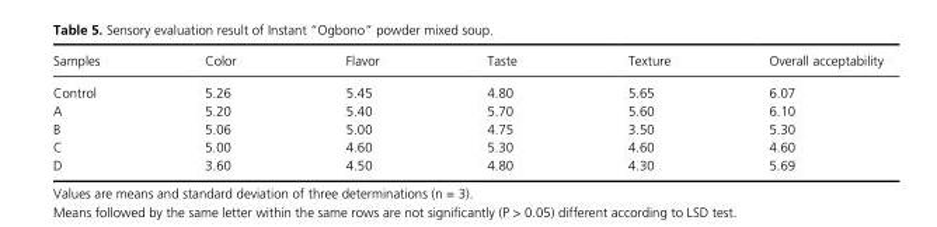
<table><thead><tr><td>Samples</td><td>Color</td><td>Flavor</td><td>Taste</td><td>Texture</td><td>Overall acceptability</td></tr></thead><tbody><tr><td>Control</td><td>5.26</td><td>5.45</td><td>4.80</td><td>5.65</td><td>6.07</td></tr><tr><td>A</td><td>5.20</td><td>5.40</td><td>5.70</td><td>5.60</td><td>6.10</td></tr><tr><td>B</td><td>5.06</td><td>5.00</td><td>4.75</td><td>3.50</td><td>5.30</td></tr><tr><td>C</td><td>5.00</td><td>4.60</td><td>5.30</td><td>4.60</td><td>4.60</td></tr><tr><td>D</td><td>3.60</td><td>4.50</td><td>4.80</td><td>4.30</td><td>5.69</td></tr></tbody></table>